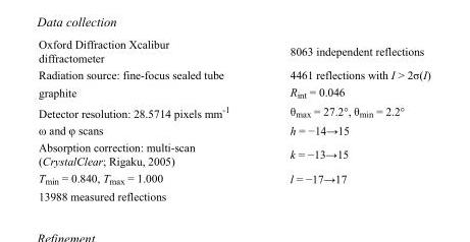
<table><tbody><tr><td>Oxford Diffraction Xcalibur diffractometer</td><td>8063 independent reflections</td></tr><tr><td>Radiation source: fine-focus sealed tube</td><td>4461 reflections with I &gt; 2σ(I)</td></tr><tr><td>graphite</td><td>R<sub>int</sub> = 0.046</td></tr><tr><td>Detector resolution: 28.5714 pixels mm<sup>-1</sup></td><td>θ<sub>max</sub> = 27.2°, θ<sub>min</sub> = 2.2°</td></tr><tr><td>ω and φ scans</td><td>h = −14→15</td></tr><tr><td>Absorption correction: multi-scan (CrystalClear; Rigaku, 2005)</td><td>k = −13→15</td></tr><tr><td>T<sub>min</sub> = 0.840, T<sub>max</sub> = 1.000</td><td>l = −17→17</td></tr><tr><td>13988 measured reflections</td><td></td></tr></tbody></table>